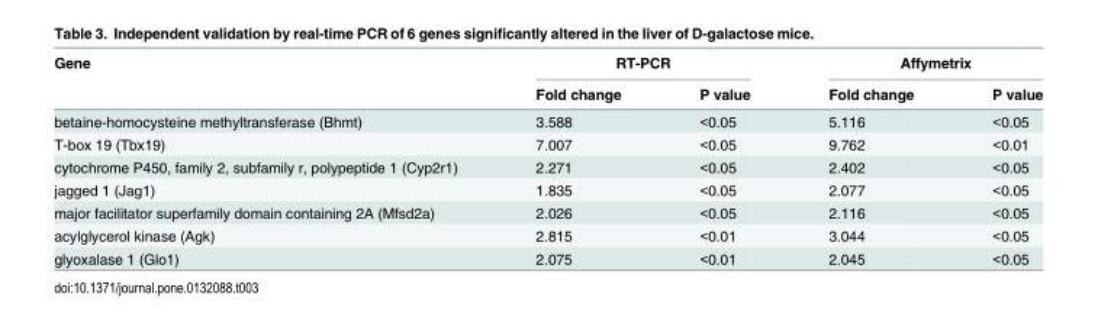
<table><thead><tr><td rowspan="2">Gene</td><td colspan="2">RT-PCR</td><td colspan="2">Affymetrix</td></tr><tr><td>Fold change</td><td>P value</td><td>Fold change</td><td>P value</td></tr></thead><tbody><tr><td>betaine-homocysteine methyltransferase (Bhmt)</td><td>3.588</td><td>&lt;0.05</td><td>5.116</td><td>&lt;0.05</td></tr><tr><td>T-box 19 (Tbx19)</td><td>7.007</td><td>&lt;0.05</td><td>9.762</td><td>&lt;0.01</td></tr><tr><td>cytochrome P450, family 2, subfamily r, polypeptide 1 (Cyp2r1)</td><td>2.271</td><td>&lt;0.05</td><td>2.402</td><td>&lt;0.05</td></tr><tr><td>jagged 1 (Jag1)</td><td>1.835</td><td>&lt;0.05</td><td>2.077</td><td>&lt;0.05</td></tr><tr><td>major facilitator superfamily domain containing 2A (Mfsd2a)</td><td>2.026</td><td>&lt;0.05</td><td>2.116</td><td>&lt;0.05</td></tr><tr><td>acylglycerol kinase (Agk)</td><td>2.815</td><td>&lt;0.01</td><td>3.044</td><td>&lt;0.05</td></tr><tr><td>glyoxalase 1 (Glo1)</td><td>2.075</td><td>&lt;0.01</td><td>2.045</td><td>&lt;0.05</td></tr></tbody></table>